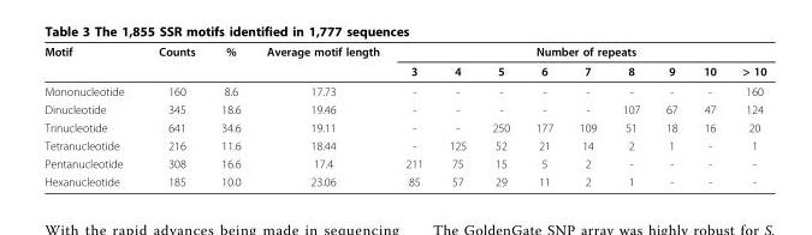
<table><thead><tr><td rowspan="2">Motif</td><td rowspan="2">Counts</td><td rowspan="2">%</td><td rowspan="2">Average motif length</td><td colspan="9">Number of repeats</td></tr><tr><td>3</td><td>4</td><td>5</td><td>6</td><td>7</td><td>8</td><td>9</td><td>10</td><td>&gt; 10</td></tr></thead><tbody><tr><td>Mononucleotide</td><td>160</td><td>8.6</td><td>17.73</td><td>-</td><td>-</td><td>-</td><td>-</td><td>-</td><td>-</td><td>-</td><td>-</td><td>160</td></tr><tr><td>Dinucleotide</td><td>345</td><td>18.6</td><td>19.46</td><td>-</td><td>-</td><td>-</td><td>-</td><td>-</td><td>107</td><td>67</td><td>47</td><td>124</td></tr><tr><td>Trinucleotide</td><td>641</td><td>34.6</td><td>19.11</td><td>-</td><td>-</td><td>250</td><td>177</td><td>109</td><td>51</td><td>18</td><td>16</td><td>20</td></tr><tr><td>Tetranucleotide</td><td>216</td><td>11.6</td><td>18.44</td><td>-</td><td>125</td><td>52</td><td>21</td><td>14</td><td>2</td><td>1</td><td>-</td><td>1</td></tr><tr><td>Pentanucleotide</td><td>308</td><td>16.6</td><td>17.4</td><td>211</td><td>75</td><td>15</td><td>5</td><td>2</td><td>-</td><td>-</td><td>-</td><td>-</td></tr><tr><td>Hexanucleotide</td><td>185</td><td>10.0</td><td>23.06</td><td>85</td><td>57</td><td>29</td><td>11</td><td>2</td><td>1</td><td>-</td><td>-</td><td>-</td></tr></tbody></table>